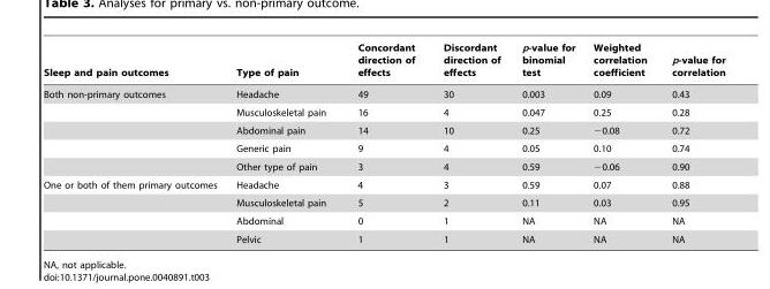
<table><thead><tr><td>Sleep and pain outcomes</td><td>Type of pain</td><td>Concordant direction of effects</td><td>Discordant direction of effects</td><td>p-value for binomial test</td><td>Weighted correlation coefficient</td><td>p-value for correlation</td></tr></thead><tbody><tr><td rowspan="5">Both non-primary outcomes</td><td>Headache</td><td>49</td><td>30</td><td>0.003</td><td>0.09</td><td>0.43</td></tr><tr><td>Musculoskeletal pain</td><td>16</td><td>4</td><td>0.047</td><td>0.25</td><td>0.28</td></tr><tr><td>Abdominal pain</td><td>14</td><td>10</td><td>0.25</td><td>−0.08</td><td>0.72</td></tr><tr><td>Generic pain</td><td>9</td><td>4</td><td>0.05</td><td>0.10</td><td>0.74</td></tr><tr><td>Other type of pain</td><td>3</td><td>4</td><td>0.59</td><td>−0.06</td><td>0.90</td></tr><tr><td rowspan="4">One or both of them primary outcomes</td><td>Headache</td><td>4</td><td>3</td><td>0.59</td><td>0.07</td><td>0.88</td></tr><tr><td>Musculoskeletal pain</td><td>5</td><td>2</td><td>0.11</td><td>0.03</td><td>0.95</td></tr><tr><td>Abdominal</td><td>0</td><td>1</td><td>NA</td><td>NA</td><td>NA</td></tr><tr><td>Pelvic</td><td>1</td><td>1</td><td>NA</td><td>NA</td><td>NA</td></tr></tbody></table>